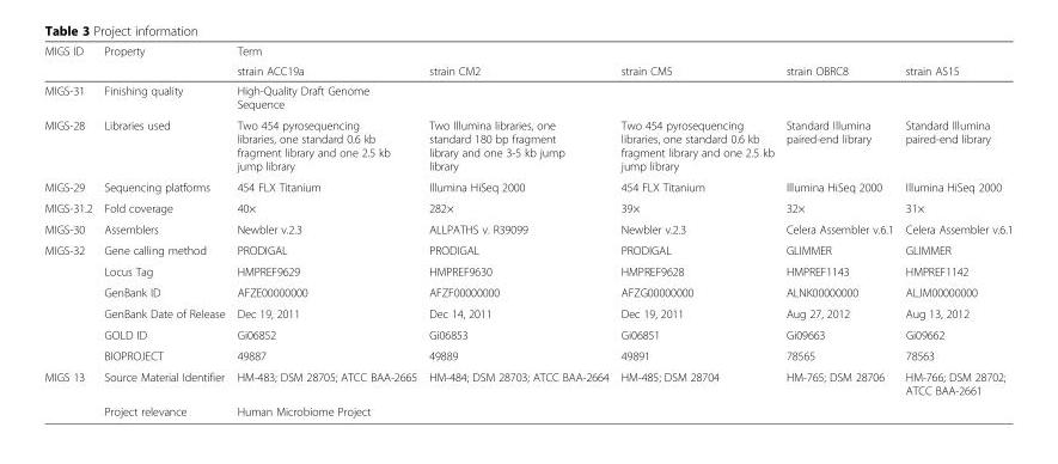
<table><thead><tr><td rowspan="2">MIGS ID</td><td rowspan="2">Property</td><td colspan="5">Term</td></tr><tr><td>strain ACC19a</td><td>strain CM2</td><td>strain CM5</td><td>strain OBRC8</td><td>strain AS15</td></tr></thead><tbody><tr><td>MIGS-31</td><td>Finishing quality</td><td colspan="5">High-Quality Draft Genome Sequence</td></tr><tr><td>MIGS-28</td><td>Libraries used</td><td>Two 454 pyrosequencing libraries, one standard 0.6 kb fragment library and one 2.5 kb jump library</td><td>Two Illumina libraries, one standard 180 bp fragment library and one 3-5 kb jump library</td><td>Two 454 pyrosequencing libraries, one standard 0.6 kb fragment library and one 2.5 kb jump library</td><td>Standard Illumina paired-end library</td><td>Standard Illumina paired-end library</td></tr><tr><td>MIGS-29</td><td>Sequencing platforms</td><td>454 FLX Titanium</td><td>Illumina HiSeq 2000</td><td>454 FLX Titanium</td><td>Illumina HiSeq 2000</td><td>Illumina HiSeq 2000</td></tr><tr><td>MIGS-31.2</td><td>Fold coverage</td><td>40×</td><td>282×</td><td>39×</td><td>32×</td><td>31×</td></tr><tr><td>MIGS-30</td><td>Assemblers</td><td>Newbler v.2.3</td><td>ALLPATHS v. R39099</td><td>Newbler v.2.3</td><td>Celera Assembler v.6.1</td><td>Celera Assembler v.6.1</td></tr><tr><td rowspan="6">MIGS-32</td><td>Gene calling method</td><td>PRODIGAL</td><td>PRODIGAL</td><td>PRODIGAL</td><td>GLIMMER</td><td>GLIMMER</td></tr><tr><td>Locus Tag</td><td>HMPREF9629</td><td>HMPREF9630</td><td>HMPREF9628</td><td>HMPREF1143</td><td>HMPREF1142</td></tr><tr><td>GenBank ID</td><td>AFZE00000000</td><td>AFZF00000000</td><td>AFZG00000000</td><td>ALNK00000000</td><td>ALJM00000000</td></tr><tr><td>GenBank Date of Release</td><td>Dec 19, 2011</td><td>Dec 14, 2011</td><td>Dec 19, 2011</td><td>Aug 27, 2012</td><td>Aug 13, 2012</td></tr><tr><td>GOLD ID</td><td>Gi06852</td><td>Gi06853</td><td>Gi06851</td><td>Gi09663</td><td>Gi09662</td></tr><tr><td>BIOPROJECT</td><td>49887</td><td>49889</td><td>49891</td><td>78565</td><td>78563</td></tr><tr><td rowspan="2">MIGS 13</td><td>Source Material Identifier</td><td>HM-483; DSM 28705; ATCC BAA-2665</td><td>HM-484; DSM 28703; ATCC BAA-2664</td><td>HM-485; DSM 28704</td><td>HM-765; DSM 28706</td><td>HM-766; DSM 28702; ATCC BAA-2661</td></tr><tr><td>Project relevance</td><td colspan="5">Human Microbiome Project</td></tr></tbody></table>